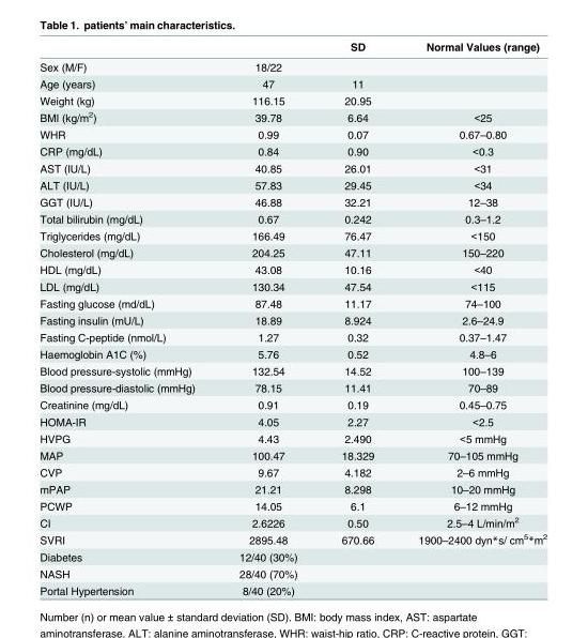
<table><thead><tr><td></td><td></td><td>SD</td><td>Normal Values (range)</td></tr></thead><tbody><tr><td>Sex (M/F)</td><td>18/22</td><td></td><td></td></tr><tr><td>Age (years)</td><td>47</td><td>11</td><td></td></tr><tr><td>Weight (kg)</td><td>116.15</td><td>20.95</td><td></td></tr><tr><td>BMI (kg/m<sup>2</sup>)</td><td>39.78</td><td>6.64</td><td>&lt;25</td></tr><tr><td>WHR</td><td>0.99</td><td>0.07</td><td>0.67–0.80</td></tr><tr><td>CRP (mg/dL)</td><td>0.84</td><td>0.90</td><td>&lt;0.3</td></tr><tr><td>AST (IU/L)</td><td>40.85</td><td>26.01</td><td>&lt;31</td></tr><tr><td>ALT (IU/L)</td><td>57.83</td><td>29.45</td><td>&lt;34</td></tr><tr><td>GGT (IU/L)</td><td>46.88</td><td>32.21</td><td>12–38</td></tr><tr><td>Total bilirubin (mg/dL)</td><td>0.67</td><td>0.242</td><td>0.3–1.2</td></tr><tr><td>Triglycerides (mg/dL)</td><td>166.49</td><td>76.47</td><td>&lt;150</td></tr><tr><td>Cholesterol (mg/dL)</td><td>204.25</td><td>47.11</td><td>150–220</td></tr><tr><td>HDL (mg/dL)</td><td>43.08</td><td>10.16</td><td>&lt;40</td></tr><tr><td>LDL (mg/dL)</td><td>130.34</td><td>47.54</td><td>&lt;115</td></tr><tr><td>Fasting glucose (md/dL)</td><td>87.48</td><td>11.17</td><td>74–100</td></tr><tr><td>Fasting insulin (mU/L)</td><td>18.89</td><td>8.924</td><td>2.6–24.9</td></tr><tr><td>Fasting C-peptide (nmol/L)</td><td>1.27</td><td>0.32</td><td>0.37–1.47</td></tr><tr><td>Haemoglobin A1C (%)</td><td>5.76</td><td>0.52</td><td>4.8–6</td></tr><tr><td>Blood pressure-systolic (mmHg)</td><td>132.54</td><td>14.52</td><td>100–139</td></tr><tr><td>Blood pressure-diastolic (mmHg)</td><td>78.15</td><td>11.41</td><td>70–89</td></tr><tr><td>Creatinine (mg/dL)</td><td>0.91</td><td>0.19</td><td>0.45–0.75</td></tr><tr><td>HOMA-IR</td><td>4.05</td><td>2.27</td><td>&lt;2.5</td></tr><tr><td>HVPG</td><td>4.43</td><td>2.490</td><td>&lt;5 mmHg</td></tr><tr><td>MAP</td><td>100.47</td><td>18.329</td><td>70–105 mmHg</td></tr><tr><td>CVP</td><td>9.67</td><td>4.182</td><td>2–6 mmHg</td></tr><tr><td>mPAP</td><td>21.21</td><td>8.298</td><td>10–20 mmHg</td></tr><tr><td>PCWP</td><td>14.05</td><td>6.1</td><td>6–12 mmHg</td></tr><tr><td>CI</td><td>2.6226</td><td>0.50</td><td>2.5–4 L/min/m<sup>2</sup></td></tr><tr><td>SVRI</td><td>2895.48</td><td>670.66</td><td>1900–2400 dyn*s/ cm<sup>5</sup>*m<sup>2</sup></td></tr><tr><td>Diabetes</td><td>12/40 (30%)</td><td></td><td></td></tr><tr><td>NASH</td><td>28/40 (70%)</td><td></td><td></td></tr><tr><td>Portal Hypertension</td><td>8/40 (20%)</td><td></td><td></td></tr></tbody></table>